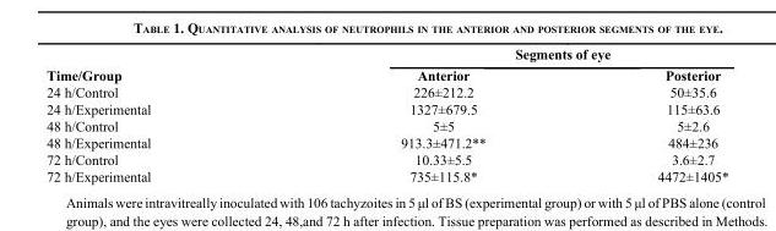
<table><thead><tr><td rowspan="2">Time/Group</td><td colspan="2">Segments of eye</td></tr><tr><td>Anterior</td><td>Posterior</td></tr></thead><tbody><tr><td>24 h/Control</td><td>226±212.2</td><td>50±35.6</td></tr><tr><td>24 h/Experimental</td><td>1327±679.5</td><td>115±63.6</td></tr><tr><td>48 h/Control</td><td>5±5</td><td>5±2.6</td></tr><tr><td>48 h/Experimental</td><td>913.3±471.2**</td><td>484±236</td></tr><tr><td>72 h/Control</td><td>10.33±5.5</td><td>3.6±2.7</td></tr><tr><td>72 h/Experimental</td><td>735±115.8*</td><td>4472±1405*</td></tr></tbody></table>